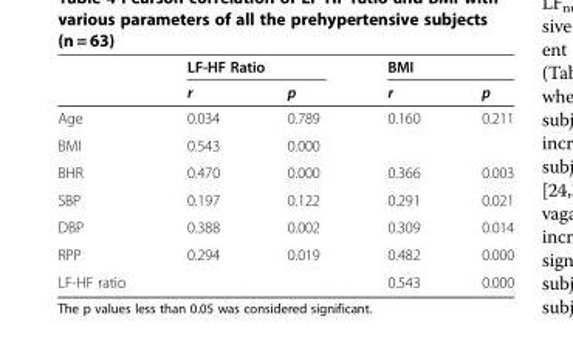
<table><thead><tr><td rowspan="2"></td><td colspan="2">LF-HF Ratio</td><td colspan="2">BMI</td></tr><tr><td>r</td><td>p</td><td>r</td><td>p</td></tr></thead><tbody><tr><td>Age</td><td>0.034</td><td>0.789</td><td>0.160</td><td>0.211</td></tr><tr><td>BMI</td><td>0.543</td><td>0.000</td><td></td><td></td></tr><tr><td>BHR</td><td>0.470</td><td>0.000</td><td>0.366</td><td>0.003</td></tr><tr><td>SBP</td><td>0.197</td><td>0.122</td><td>0.291</td><td>0.021</td></tr><tr><td>DBP</td><td>0.388</td><td>0.002</td><td>0.309</td><td>0.014</td></tr><tr><td>RPP</td><td>0.294</td><td>0.019</td><td>0.482</td><td>0.000</td></tr><tr><td>LF-HF ratio</td><td></td><td></td><td>0.543</td><td>0.000</td></tr></tbody></table>